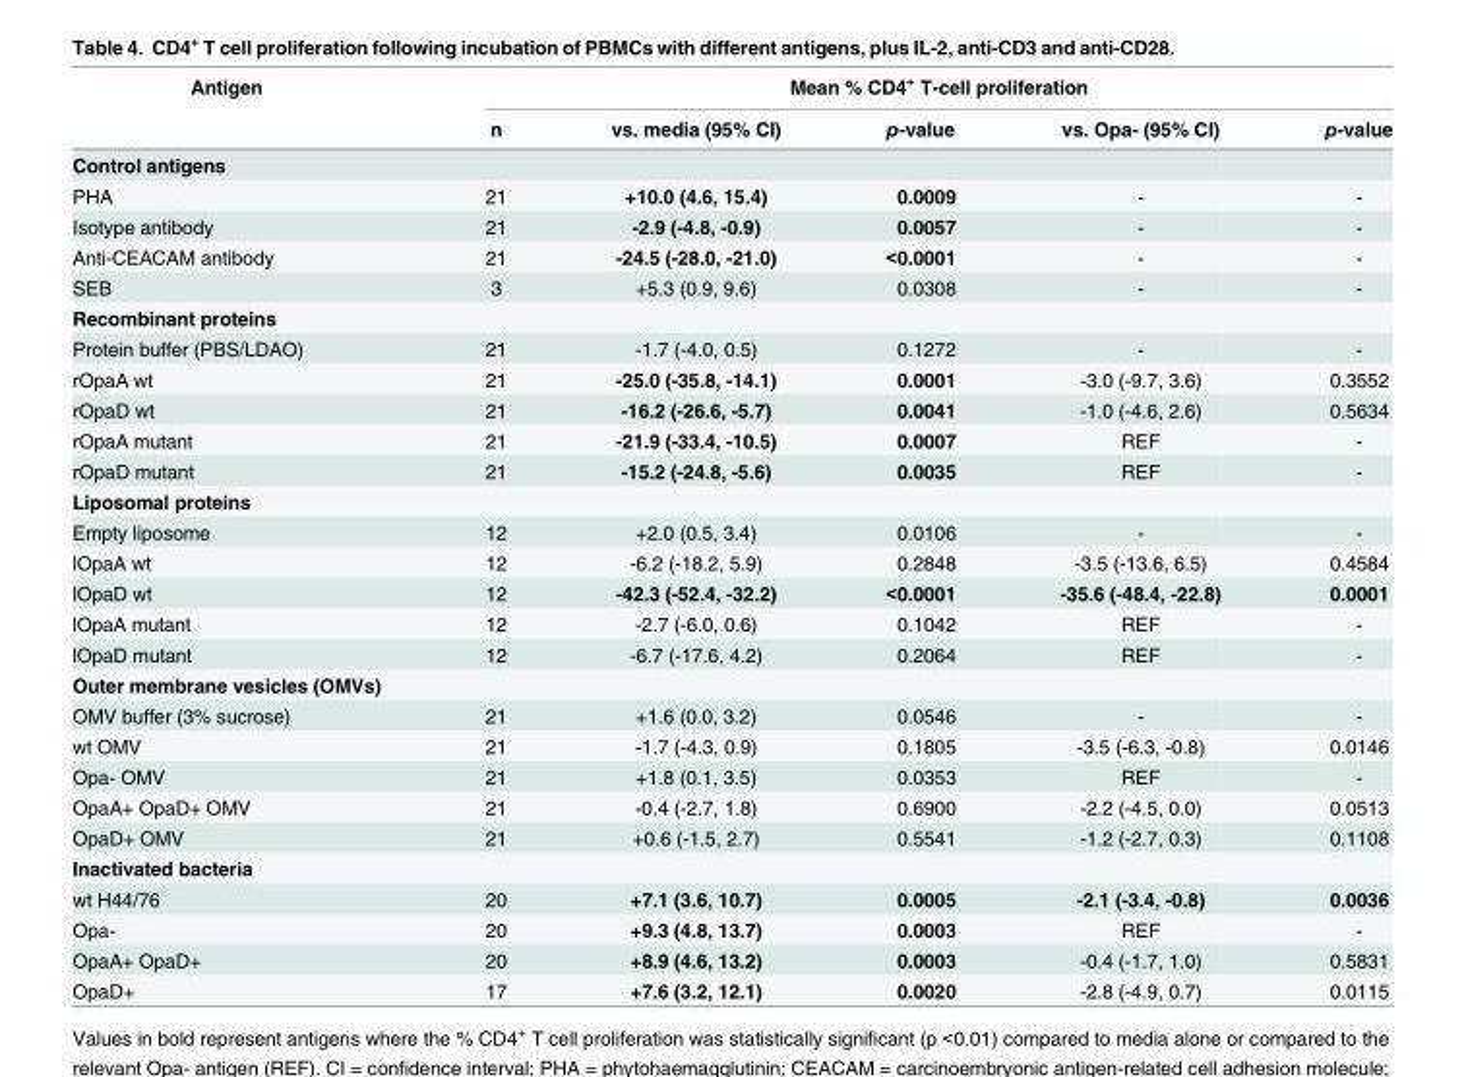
<table><thead><tr><td rowspan="2">Antigen</td><td colspan="5">Mean % CD4<sup>+</sup> T-cell proliferation</td></tr><tr><td>n</td><td>vs. media (95% CI)</td><td>p-value</td><td>vs. Opa- (95% CI)</td><td>p-value</td></tr></thead><tbody><tr><td colspan="6">Control antigens</td></tr><tr><td>PHA</td><td>21</td><td>+10.0 (4.6, 15.4)</td><td>0.0009</td><td>-</td><td>-</td></tr><tr><td>Isotype antibody</td><td>21</td><td>-2.9 (-4.8, -0.9)</td><td>0.0057</td><td>-</td><td>-</td></tr><tr><td>Anti-CEACAM antibody</td><td>21</td><td>-24.5 (-28.0, -21.0)</td><td>&lt;0.0001</td><td>-</td><td>-</td></tr><tr><td>SEB</td><td>3</td><td>+5.3 (0.9, 9.6)</td><td>0.0308</td><td>-</td><td>-</td></tr><tr><td colspan="6">Recombinant proteins</td></tr><tr><td>Protein buffer (PBS/LDAO)</td><td>21</td><td>-1.7 (-4.0, 0.5)</td><td>0.1272</td><td>-</td><td>-</td></tr><tr><td>rOpaA wt</td><td>21</td><td>-25.0 (-35.8, -14.1)</td><td>0.0001</td><td>-3.0 (-9.7, 3.6)</td><td>0.3552</td></tr><tr><td>rOpaD wt</td><td>21</td><td>-16.2 (-26.6, -5.7)</td><td>0.0041</td><td>-1.0 (-4.6, 2.6)</td><td>0.5634</td></tr><tr><td>rOpaA mutant</td><td>21</td><td>-21.9 (-33.4, -10.5)</td><td>0.0007</td><td>REF</td><td>-</td></tr><tr><td>rOpaD mutant</td><td>21</td><td>-15.2 (-24.8, -5.6)</td><td>0.0035</td><td>REF</td><td>-</td></tr><tr><td colspan="6">Liposomal proteins</td></tr><tr><td>Empty liposome</td><td>12</td><td>+2.0 (0.5, 3.4)</td><td>0.0106</td><td>-</td><td>-</td></tr><tr><td>lOpaA wt</td><td>12</td><td>-6.2 (-18.2, 5.9)</td><td>0.2848</td><td>-3.5 (-13.6, 6.5)</td><td>0.4584</td></tr><tr><td>lOpaD wt</td><td>12</td><td>-42.3 (-52.4, -32.2)</td><td>&lt;0.0001</td><td>-35.6 (-48.4, -22.8)</td><td>0.0001</td></tr><tr><td>lOpaA mutant</td><td>12</td><td>-2.7 (-6.0, 0.6)</td><td>0.1042</td><td>REF</td><td>-</td></tr><tr><td>lOpaD mutant</td><td>12</td><td>-6.7 (-17.6, 4.2)</td><td>0.2064</td><td>REF</td><td>-</td></tr><tr><td colspan="6">Outer membrane vesicles (OMVs)</td></tr><tr><td>OMV buffer (3% sucrose)</td><td>21</td><td>+1.6 (0.0, 3.2)</td><td>0.0546</td><td>-</td><td>-</td></tr><tr><td>wt OMV</td><td>21</td><td>-1.7 (-4.3, 0.9)</td><td>0.1805</td><td>-3.5 (-6.3, -0.8)</td><td>0.0146</td></tr><tr><td>Opa- OMV</td><td>21</td><td>+1.8 (0.1, 3.5)</td><td>0.0353</td><td>REF</td><td>-</td></tr><tr><td>OpaA+ OpaD+ OMV</td><td>21</td><td>-0.4 (-2.7, 1.8)</td><td>0.6900</td><td>-2.2 (-4.5, 0.0)</td><td>0.0513</td></tr><tr><td>OpaD+ OMV</td><td>21</td><td>+0.6 (-1.5, 2.7)</td><td>0.5541</td><td>-1.2 (-2.7, 0.3)</td><td>0.1108</td></tr><tr><td colspan="6">Inactivated bacteria</td></tr><tr><td>wt H44/76</td><td>20</td><td>+7.1 (3.6, 10.7)</td><td>0.0005</td><td>-2.1 (-3.4, -0.8)</td><td>0.0036</td></tr><tr><td>Opa-</td><td>20</td><td>+9.3 (4.8, 13.7)</td><td>0.0003</td><td>REF</td><td>-</td></tr><tr><td>OpaA+ OpaD+</td><td>20</td><td>+8.9 (4.6, 13.2)</td><td>0.0003</td><td>-0.4 (-1.7, 1.0)</td><td>0.5831</td></tr><tr><td>OpaD+</td><td>17</td><td>+7.6 (3.2, 12.1)</td><td>0.0020</td><td>-2.8 (-4.9, 0.7)</td><td>0.0115</td></tr></tbody></table>